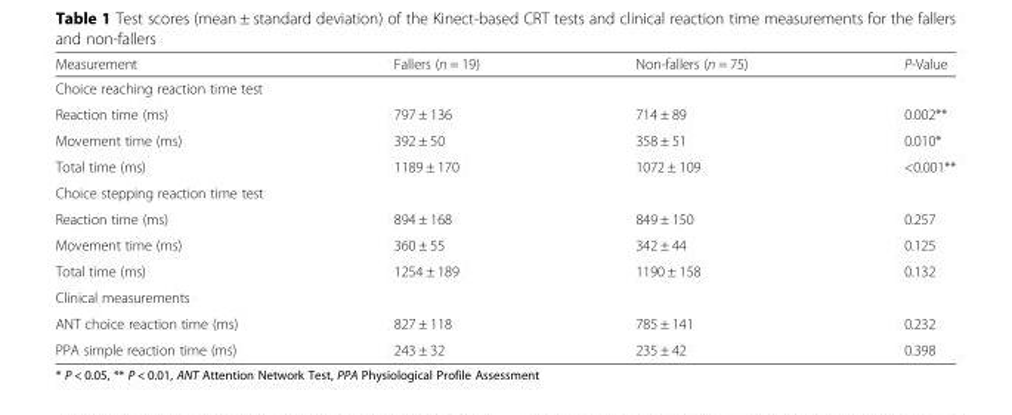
<table><thead><tr><td>Measurement</td><td>Fallers (n = 19)</td><td>Non-fallers (n = 75)</td><td>P-Value</td></tr></thead><tbody><tr><td colspan="4">Choice reaching reaction time test</td></tr><tr><td>Reaction time (ms)</td><td>797 ± 136</td><td>714 ± 89</td><td>0.002**</td></tr><tr><td>Movement time (ms)</td><td>392 ± 50</td><td>358 ± 51</td><td>0.010*</td></tr><tr><td>Total time (ms)</td><td>1189 ± 170</td><td>1072 ± 109</td><td>&lt;0.001**</td></tr><tr><td colspan="4">Choice stepping reaction time test</td></tr><tr><td>Reaction time (ms)</td><td>894 ± 168</td><td>849 ± 150</td><td>0.257</td></tr><tr><td>Movement time (ms)</td><td>360 ± 55</td><td>342 ± 44</td><td>0.125</td></tr><tr><td>Total time (ms)</td><td>1254 ± 189</td><td>1190 ± 158</td><td>0.132</td></tr><tr><td colspan="4">Clinical measurements</td></tr><tr><td>ANT choice reaction time (ms)</td><td>827 ± 118</td><td>785 ± 141</td><td>0.232</td></tr><tr><td>PPA simple reaction time (ms)</td><td>243 ± 32</td><td>235 ± 42</td><td>0.398</td></tr></tbody></table>